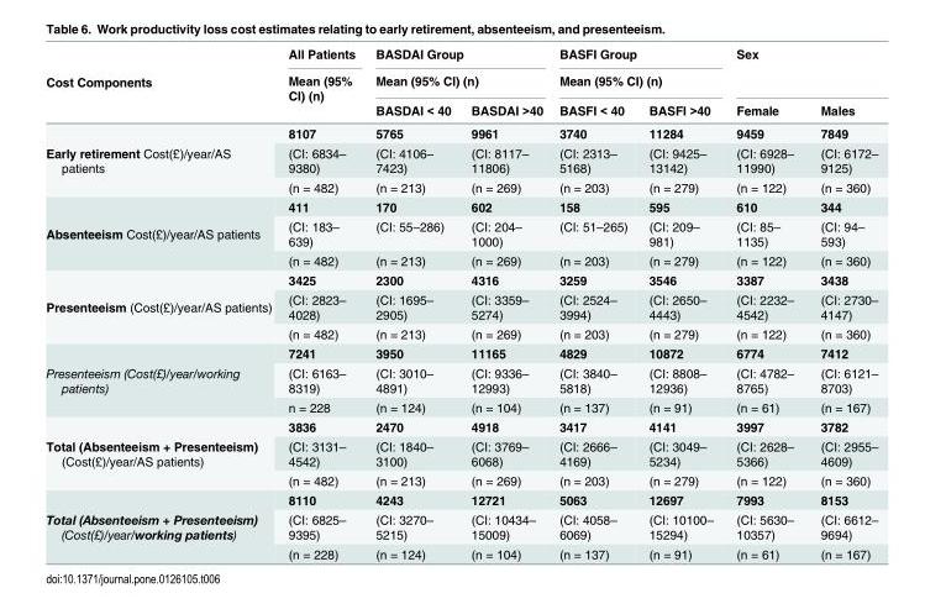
<table><thead><tr><td rowspan="3">Cost Components</td><td rowspan="3">All Patients Mean (95% CI) (n)</td><td rowspan="2" colspan="2">BASDAI Group Mean (95% CI) (n)</td><td rowspan="2" colspan="2">BASFI Group Mean (95% CI) (n)</td><td rowspan="2" colspan="2">Sex</td></tr><tr></tr><tr><td>BASDAI &lt; 40</td><td>BASDAI &gt;40</td><td>BASFI &lt; 40</td><td>BASFI &gt;40</td><td>Female</td><td>Males</td></tr></thead><tbody><tr><td rowspan="3">Early retirement Cost(£)/year/AS patients</td><td>8107</td><td>5765</td><td>9961</td><td>3740</td><td>11284</td><td>9459</td><td>7849</td></tr><tr><td>(CI: 6834– 9380)</td><td>(CI: 4106– 7423)</td><td>(CI: 8117– 11806)</td><td>(CI: 2313– 5168)</td><td>(CI: 9425– 13142)</td><td>(CI: 6928– 11990)</td><td>(CI: 6172– 9125)</td></tr><tr><td>(n = 482)</td><td>(n = 213)</td><td>(n = 269)</td><td>(n = 203)</td><td>(n = 279)</td><td>(n = 122)</td><td>(n = 360)</td></tr><tr><td rowspan="3">Absenteeism Cost(£)/year/AS patients</td><td>411</td><td>170</td><td>602</td><td>158</td><td>595</td><td>610</td><td>344</td></tr><tr><td>(CI: 183– 639)</td><td>(CI: 55–286)</td><td>(CI: 204– 1000)</td><td>(CI: 51–265)</td><td>(CI: 209– 981)</td><td>(CI: 85– 1135)</td><td>(CI: 94– 593)</td></tr><tr><td>(n = 482)</td><td>(n = 213)</td><td>(n = 269)</td><td>(n = 203)</td><td>(n = 279)</td><td>(n = 122)</td><td>(n = 360)</td></tr><tr><td rowspan="3">Presenteeism (Cost(£)/year/AS patients)</td><td>3425</td><td>2300</td><td>4316</td><td>3259</td><td>3546</td><td>3387</td><td>3438</td></tr><tr><td>(CI: 2823– 4028)</td><td>(CI: 1695– 2905)</td><td>(CI: 3359– 5274)</td><td>(CI: 2524– 3994)</td><td>(CI: 2650– 4443)</td><td>(CI: 2232– 4542)</td><td>(CI: 2730– 4147)</td></tr><tr><td>(n = 482)</td><td>(n = 213)</td><td>(n = 269)</td><td>(n = 203)</td><td>(n = 279)</td><td>(n = 122)</td><td>(n = 360)</td></tr><tr><td rowspan="3">Presenteeism (Cost(£)/year/working patients)</td><td>7241</td><td>3950</td><td>11165</td><td>4829</td><td>10872</td><td>6774</td><td>7412</td></tr><tr><td>(CI: 6163– 8319)</td><td>(CI: 3010– 4891)</td><td>(CI: 9336– 12993)</td><td>(CI: 3840– 5818)</td><td>(CI: 8808– 12936)</td><td>(CI: 4782– 8765)</td><td>(CI: 6121– 8703)</td></tr><tr><td>n = 228</td><td>(n = 124)</td><td>(n = 104)</td><td>(n = 137)</td><td>(n = 91)</td><td>(n = 61)</td><td>(n = 167)</td></tr><tr><td rowspan="3">Total (Absenteeism + Presenteeism) (Cost(£)/year/AS patients)</td><td>3836</td><td>2470</td><td>4918</td><td>3417</td><td>4141</td><td>3997</td><td>3782</td></tr><tr><td>(CI: 3131– 4542)</td><td>(CI: 1840– 3100)</td><td>(CI: 3769– 6068)</td><td>(CI: 2666– 4169)</td><td>(CI: 3049– 5234)</td><td>(CI: 2628– 5366)</td><td>(CI: 2955– 4609)</td></tr><tr><td>(n = 482)</td><td>(n = 213)</td><td>(n = 269)</td><td>(n = 203)</td><td>(n = 279)</td><td>(n = 122)</td><td>(n = 360)</td></tr><tr><td rowspan="3">Total (Absenteeism + Presenteeism) (Cost(£)/year/working patients)</td><td>8110</td><td>4243</td><td>12721</td><td>5063</td><td>12697</td><td>7993</td><td>8153</td></tr><tr><td>(CI: 6825– 9395)</td><td>(CI: 3270– 5215)</td><td>(CI: 10434– 15009)</td><td>(CI: 4058– 6069)</td><td>(CI: 10100– 15294)</td><td>(CI: 5630– 10357)</td><td>(CI: 6612– 9694)</td></tr><tr><td>(n = 228)</td><td>(n = 124)</td><td>(n = 104)</td><td>(n = 137)</td><td>(n = 91)</td><td>(n = 61)</td><td>(n = 167)</td></tr></tbody></table>